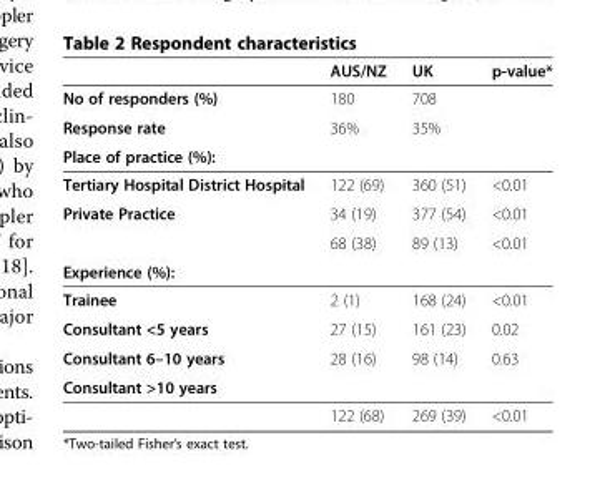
<table><thead><tr><td></td><td>AUS/NZ</td><td>UK</td><td>p-value*</td></tr></thead><tbody><tr><td>No of responders (%)</td><td>180</td><td>708</td><td></td></tr><tr><td>Response rate</td><td>36%</td><td>35%</td><td></td></tr><tr><td colspan="4">Place of practice (%):</td></tr><tr><td>Tertiary Hospital District Hospital</td><td>122 (69)</td><td>360 (51)</td><td>&lt;0.01</td></tr><tr><td rowspan="2">Private Practice</td><td>34 (19)</td><td>377 (54)</td><td>&lt;0.01</td></tr><tr><td>68 (38)</td><td>89 (13)</td><td>&lt;0.01</td></tr><tr><td colspan="4">Experience (%):</td></tr><tr><td>Trainee</td><td>2 (1)</td><td>168 (24)</td><td>&lt;0.01</td></tr><tr><td>Consultant &lt;5 years</td><td>27 (15)</td><td>161 (23)</td><td>0.02</td></tr><tr><td>Consultant 6–10 years</td><td>28 (16)</td><td>98 (14)</td><td>0.63</td></tr><tr><td colspan="4">Consultant &gt;10 years</td></tr><tr><td></td><td>122 (68)</td><td>269 (39)</td><td>&lt;0.01</td></tr></tbody></table>